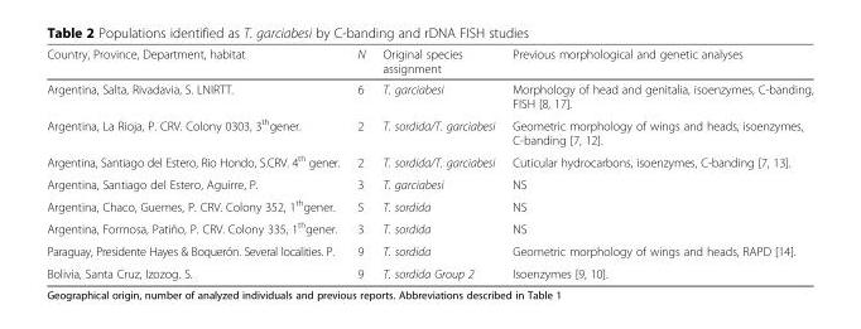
<table><thead><tr><td>Country, Province, Department, habitat</td><td>N</td><td>Original species assignment</td><td>Previous morphological and genetic analyses</td></tr></thead><tbody><tr><td>Argentina, Salta, Rivadavia, S. LNIRTT.</td><td>6</td><td>T. garciabesi</td><td>Morphology of head and genitalia, isoenzymes, C-banding, FISH [8, 17].</td></tr><tr><td>Argentina, La Rioja, P. CRV. Colony 0303, 3<sup>th</sup>gener.</td><td>2</td><td>T. sordida/T. garciabesi</td><td>Geometric morphology of wings and heads, isoenzymes, C-banding [7, 12].</td></tr><tr><td>Argentina, Santiago del Estero, Rio Hondo, S.CRV. 4<sup>th</sup> gener.</td><td>2</td><td>T. sordida/T. garciabesi</td><td>Cuticular hydrocarbons, isoenzymes, C-banding [7, 13].</td></tr><tr><td>Argentina, Santiago del Estero, Aguirre, P.</td><td>3</td><td>T. garciabesi</td><td>NS</td></tr><tr><td>Argentina, Chaco, Guemes, P. CRV. Colony 352, 1<sup>th</sup>gener.</td><td>5</td><td>T. sordida</td><td>NS</td></tr><tr><td>Argentina, Formosa, Patiño, P. CRV. Colony 335, 1<sup>th</sup>gener.</td><td>3</td><td>T. sordida</td><td>NS</td></tr><tr><td>Paraguay, Presidente Hayes &amp; Boquerón. Several localities. P.</td><td>9</td><td>T. sordida</td><td>Geometric morphology of wings and heads, RAPD [14].</td></tr><tr><td>Bolivia, Santa Cruz, Izozog. S.</td><td>9</td><td>T. sordida Group 2</td><td>Isoenzymes [9, 10].</td></tr></tbody></table>